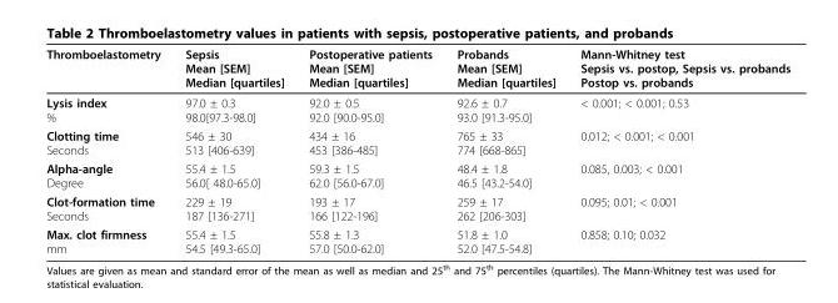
<table><thead><tr><td>Thromboelastometry</td><td>Sepsis Mean [SEM] Median [quartiles]</td><td>Postoperative patients Mean [SEM] Median [quartiles]</td><td>Probands Mean [SEM] Median [quartiles]</td><td>Mann-Whitney test Sepsis vs. postop, Sepsis vs. probands Postop vs. probands</td></tr></thead><tbody><tr><td>Lysis index %</td><td>97.0 ± 0.3 98.0[97.3-98.0]</td><td>92.0 ± 0.5 92.0 [90.0-95.0]</td><td>92.6 ± 0.7 93.0 [91.3-95.0]</td><td>&lt; 0.001; &lt; 0.001; 0.53</td></tr><tr><td>Clotting time Seconds</td><td>546 ± 30 513 [406-639]</td><td>434 ± 16 453 [386-485]</td><td>765 ± 33 774 [668-865]</td><td>0.012; &lt; 0.001; &lt; 0.001</td></tr><tr><td>Alpha-angle Degree</td><td>55.4 ± 1.5 56.0[ 48.0-65.0]</td><td>59.3 ± 1.5 62.0 [56.0-67.0]</td><td>48.4 ± 1.8 46.5 [43.2-54.0]</td><td>0.085, 0.003; &lt; 0.001</td></tr><tr><td>Clot-formation time Seconds</td><td>229 ± 19 187 [136-271]</td><td>193 ± 17 166 [122-196]</td><td>259 ± 17 262 [206-303]</td><td>0.095; 0.01; &lt; 0.001</td></tr><tr><td>Max. clot firmness mm</td><td>55.4 ± 1.5 54.5 [49.3-65.0]</td><td>55.8 ± 1.3 57.0 [50.0-62.0]</td><td>51.8 ± 1.0 52.0 [47.5-54.8]</td><td>0.858; 0.10; 0.032</td></tr></tbody></table>